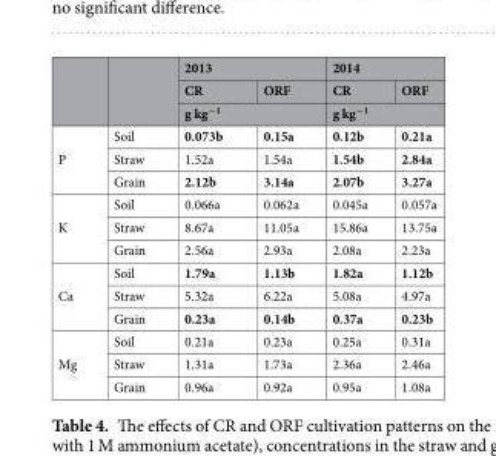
<table><thead><tr><td rowspan="3"></td><td rowspan="3"></td><td colspan="2">2013</td><td colspan="2">2014</td></tr><tr><td>CR</td><td>ORF</td><td>CR</td><td>ORF</td></tr><tr><td colspan="2">g kg<sup>−1</sup></td><td colspan="2">g kg<sup>−1</sup></td></tr></thead><tbody><tr><td rowspan="3">P</td><td>Soil</td><td>0.073b</td><td>0.15a</td><td>0.12b</td><td>0.21a</td></tr><tr><td>Straw</td><td>1.52a</td><td>1.54a</td><td>1.54b</td><td>2.84a</td></tr><tr><td>Grain</td><td>2.12b</td><td>3.14a</td><td>2.07b</td><td>3.27a</td></tr><tr><td rowspan="3">K</td><td>Soil</td><td>0.066a</td><td>0.062a</td><td>0.045a</td><td>0.057a</td></tr><tr><td>Straw</td><td>8.67a</td><td>11.05a</td><td>15.86a</td><td>13.75a</td></tr><tr><td>Grain</td><td>2.56a</td><td>2.93a</td><td>2.08a</td><td>2.23a</td></tr><tr><td rowspan="3">Ca</td><td>Soil</td><td>1.79a</td><td>1.13b</td><td>1.82a</td><td>1.12b</td></tr><tr><td>Straw</td><td>5.32a</td><td>6.22a</td><td>5.08a</td><td>4.97a</td></tr><tr><td>Grain</td><td>0.23a</td><td>0.14b</td><td>0.37a</td><td>0.23b</td></tr><tr><td rowspan="3">Mg</td><td>Soil</td><td>0.21a</td><td>0.23a</td><td>0.25a</td><td>0.31a</td></tr><tr><td>Straw</td><td>1.31a</td><td>1.73a</td><td>2.36a</td><td>2.46a</td></tr><tr><td>Grain</td><td>0.96a</td><td>0.92a</td><td>0.95a</td><td>1.08a</td></tr></tbody></table>